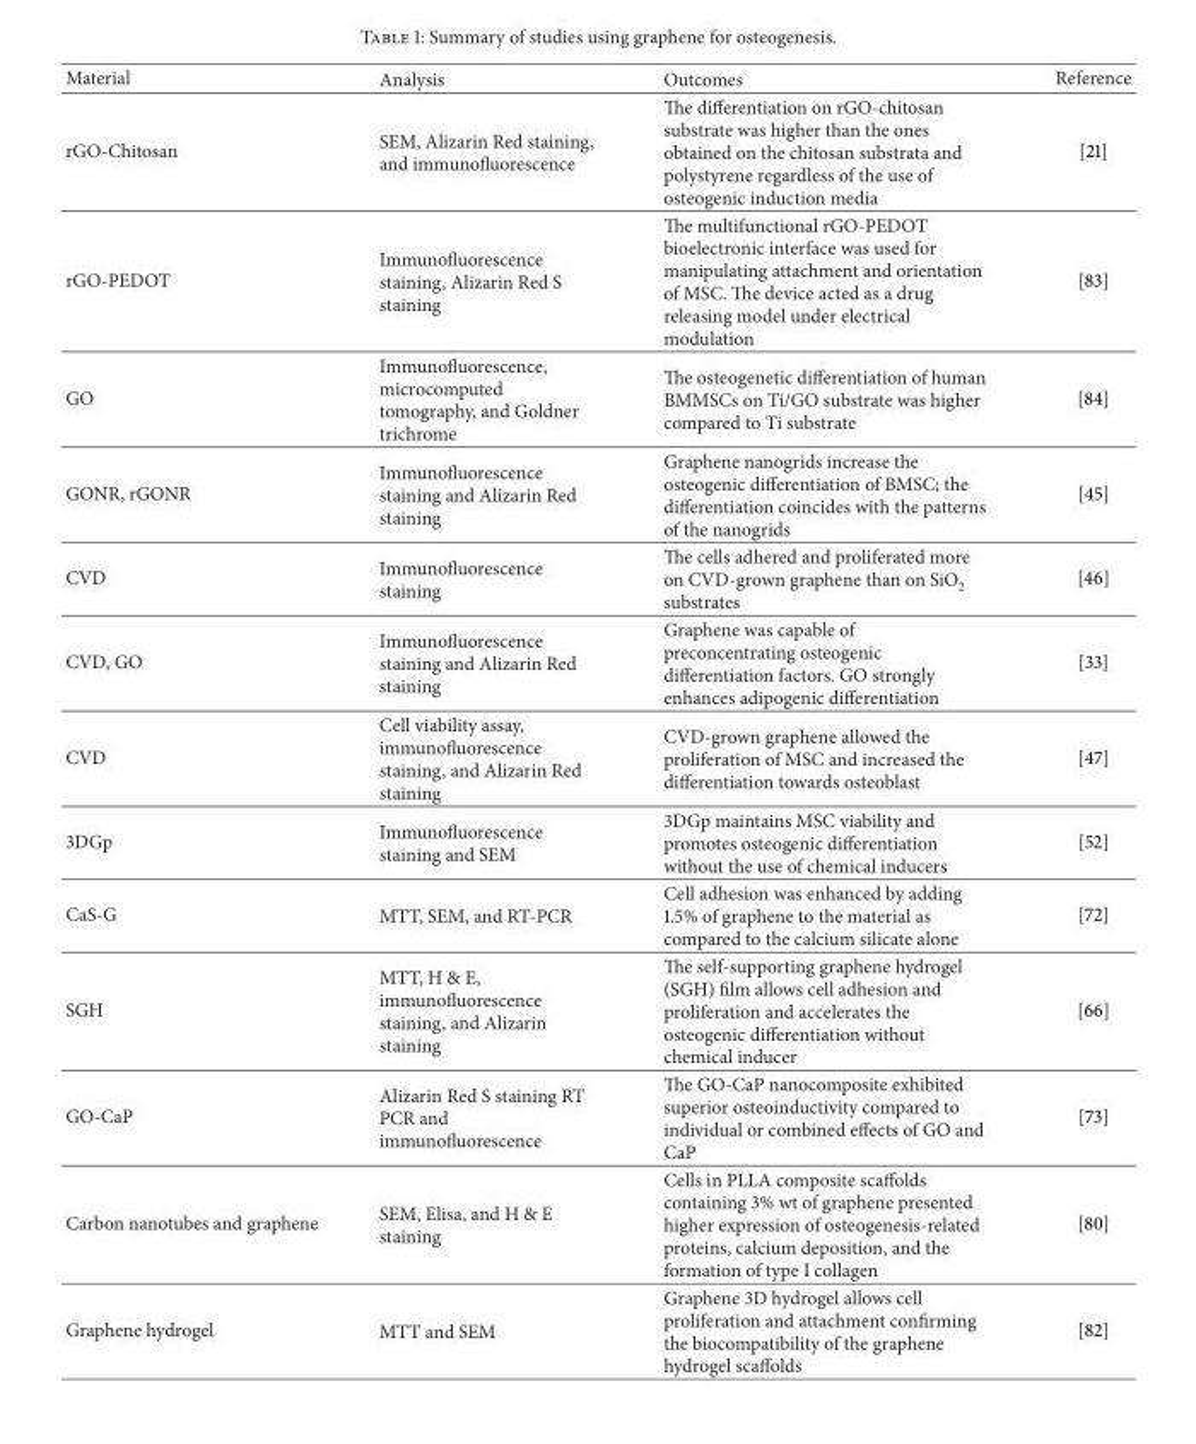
<table><thead><tr><td>Material</td><td>Analysis</td><td>Outcomes</td><td>Reference</td></tr></thead><tbody><tr><td>rGO-Chitosan</td><td>SEM, Alizarin Red staining, and immunofluorescence</td><td>The differentiation on rGO-chitosan substrate was higher than the ones obtained on the chitosan substrata and polystyrene regardless of the use of osteogenic induction media</td><td>[21]</td></tr><tr><td>rGO-PEDOT</td><td>Immunofluorescence staining, Alizarin Red S staining</td><td>The multifunctional rGO-PEDOT bioelectronic interface was used for manipulating attachment and orientation of MSC. The device acted as a drug releasing model under electrical modulation</td><td>[83]</td></tr><tr><td>GO</td><td>Immunofluorescence, microcomputed tomography, and Goldner trichrome</td><td>The osteogenetic differentiation of human BMMSCs on Ti/GO substrate was higher compared to Ti substrate</td><td>[84]</td></tr><tr><td>GONR, rGONR</td><td>Immunofluorescence staining and Alizarin Red staining</td><td>Graphene nanogrids increase the osteogenic differentiation of BMSC; the differentiation coincides with the patterns of the nanogrids</td><td>[45]</td></tr><tr><td>CVD</td><td>Immunofluorescence staining</td><td>The cells adhered and proliferated more on CVD-grown graphene than on SiO<sub>2</sub> substrates</td><td>[46]</td></tr><tr><td>CVD, GO</td><td>Immunofluorescence staining and Alizarin Red staining</td><td>Graphene was capable of preconcentrating osteogenic differentiation factors. GO strongly enhances adipogenic differentiation</td><td>[33]</td></tr><tr><td>CVD</td><td>Cell viability assay, immunofluorescence staining, and Alizarin Red staining</td><td>CVD-grown graphene allowed the proliferation of MSC and increased the differentiation towards osteoblast</td><td>[47]</td></tr><tr><td>3DGp</td><td>Immunofluorescence staining and SEM</td><td>3DGp maintains MSC viability and promotes osteogenic differentiation without the use of chemical inducers</td><td>[52]</td></tr><tr><td>CaS-G</td><td>MTT, SEM, and RT-PCR</td><td>Cell adhesion was enhanced by adding 1.5% of graphene to the material as compared to the calcium silicate alone</td><td>[72]</td></tr><tr><td>SGH</td><td>MTT, H &amp; E, immunofluorescence staining, and Alizarin staining</td><td>The self-supporting graphene hydrogel (SGH) film allows cell adhesion and proliferation and accelerates the osteogenic differentiation without chemical inducer</td><td>[66]</td></tr><tr><td>GO-CaP</td><td>Alizarin Red S staining RT PCR and immunofluorescence</td><td>The GO-CaP nanocomposite exhibited superior osteoinductivity compared to individual or combined effects of GO and CaP</td><td>[73]</td></tr><tr><td>Carbon nanotubes and graphene</td><td>SEM, Elisa, and H &amp; E staining</td><td>Cells in PLLA composite scaffolds containing 3% wt of graphene presented higher expression of osteogenesis-related proteins, calcium deposition, and the formation of type I collagen</td><td>[80]</td></tr><tr><td>Graphene hydrogel</td><td>MTT and SEM</td><td>Graphene 3D hydrogel allows cell proliferation and attachment confirming the biocompatibility of the graphene hydrogel scaffolds</td><td>[82]</td></tr></tbody></table>